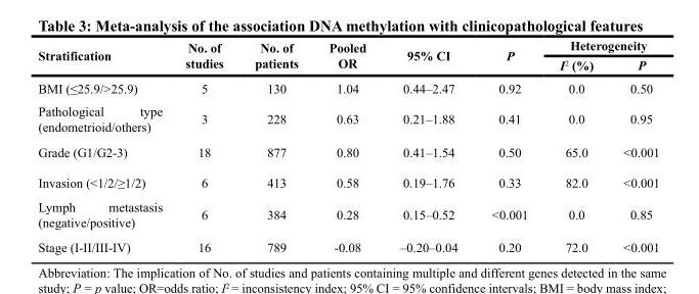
<table><thead><tr><td rowspan="2">Stratification</td><td rowspan="2">No. of studies</td><td rowspan="2">No. of patients</td><td rowspan="2">Pooled OR</td><td rowspan="2">95% CI</td><td rowspan="2">P</td><td colspan="2">Heterogeneity</td></tr><tr><td>I<sup>2</sup> (%)</td><td>P</td></tr></thead><tbody><tr><td>BMI (≤25.9/&gt;25.9)</td><td>5</td><td>130</td><td>1.04</td><td>0.44–2.47</td><td>0.92</td><td>0.0</td><td>0.50</td></tr><tr><td>Pathological type (endometrioid/others)</td><td>3</td><td>228</td><td>0.63</td><td>0.21–1.88</td><td>0.41</td><td>0.0</td><td>0.95</td></tr><tr><td>Grade (G1/G2-3)</td><td>18</td><td>877</td><td>0.80</td><td>0.41–1.54</td><td>0.50</td><td>65.0</td><td>&lt;0.001</td></tr><tr><td>Invasion (&lt;1/2/≥1/2)</td><td>6</td><td>413</td><td>0.58</td><td>0.19–1.76</td><td>0.33</td><td>82.0</td><td>&lt;0.001</td></tr><tr><td>Lymph metastasis (negative/positive)</td><td>6</td><td>384</td><td>0.28</td><td>0.15–0.52</td><td>&lt;0.001</td><td>0.0</td><td>0.85</td></tr><tr><td>Stage (I-II/III-IV)</td><td>16</td><td>789</td><td>-0.08</td><td>–0.20–0.04</td><td>0.20</td><td>72.0</td><td>&lt;0.001</td></tr></tbody></table>